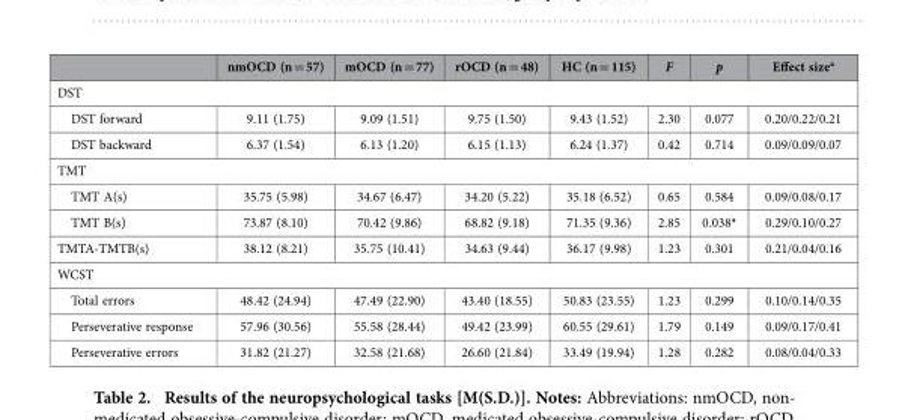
<table><thead><tr><td></td><td>nmOCD (n = 57)</td><td>mOCD (n = 77)</td><td>rOCD (n = 48)</td><td>HC (n = 115)</td><td>F</td><td>p</td><td>Effect size<sup>a</sup></td></tr></thead><tbody><tr><td colspan="8">DST</td></tr><tr><td>DST forward</td><td>9.11 (1.75)</td><td>9.09 (1.51)</td><td>9.75 (1.50)</td><td>9.43 (1.52)</td><td>2.30</td><td>0.077</td><td>0.20/0.22/0.21</td></tr><tr><td>DST backward</td><td>6.37 (1.54)</td><td>6.13 (1.20)</td><td>6.15 (1.13)</td><td>6.24 (1.37)</td><td>0.42</td><td>0.714</td><td>0.09/0.09/0.07</td></tr><tr><td colspan="8">TMT</td></tr><tr><td>TMT A(s)</td><td>35.75 (5.98)</td><td>34.67 (6.47)</td><td>34.20 (5.22)</td><td>35.18 (6.52)</td><td>0.65</td><td>0.584</td><td>0.09/0.08/0.17</td></tr><tr><td>TMT B(s)</td><td>73.87 (8.10)</td><td>70.42 (9.86)</td><td>68.82 (9.18)</td><td>71.35 (9.36)</td><td>2.85</td><td>0.038*</td><td>0.29/0.10/0.27</td></tr><tr><td>TMTA-TMTB(s)</td><td>38.12 (8.21)</td><td>35.75 (10.41)</td><td>34.63 (9.44)</td><td>36.17 (9.98)</td><td>1.23</td><td>0.301</td><td>0.21/0.04/0.16</td></tr><tr><td colspan="8">WCST</td></tr><tr><td>Total errors</td><td>48.42 (24.94)</td><td>47.49 (22.90)</td><td>43.40 (18.55)</td><td>50.83 (23.55)</td><td>1.23</td><td>0.299</td><td>0.10/0.14/0.35</td></tr><tr><td>Perseverative response</td><td>57.96 (30.56)</td><td>55.58 (28.44)</td><td>49.42 (23.99)</td><td>60.55 (29.61)</td><td>1.79</td><td>0.149</td><td>0.09/0.17/0.41</td></tr><tr><td>Perseverative errors</td><td>31.82 (21.27)</td><td>32.58 (21.68)</td><td>26.60 (21.84)</td><td>33.49 (19.94)</td><td>1.28</td><td>0.282</td><td>0.08/0.04/0.33</td></tr></tbody></table>